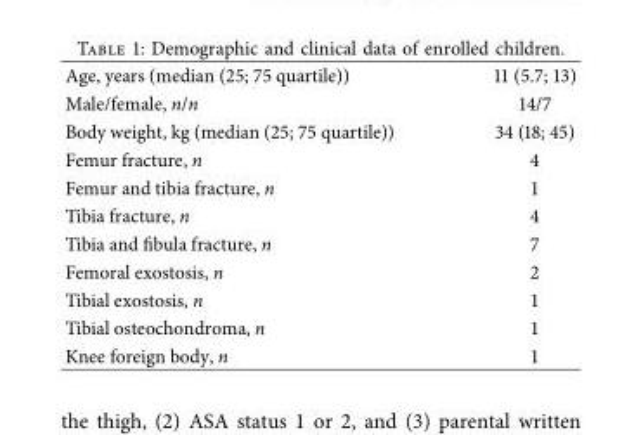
<table><tbody><tr><td>Age, years (median (25; 75 quartile))</td><td>11 (5.7; 13)</td></tr><tr><td>Male/female, n/n</td><td>14/7</td></tr><tr><td>Body weight, kg (median (25; 75 quartile))</td><td>34 (18; 45)</td></tr><tr><td>Femur fracture, n</td><td>4</td></tr><tr><td>Femur and tibia fracture, n</td><td>1</td></tr><tr><td>Tibia fracture, n</td><td>4</td></tr><tr><td>Tibia and fbula fracture, n</td><td>7</td></tr><tr><td>Femoral exostosis, n</td><td>2</td></tr><tr><td>Tibial exostosis, n</td><td>1</td></tr><tr><td>Tibial osteochondroma, n</td><td>1</td></tr><tr><td>Knee foreign body, n</td><td>1</td></tr></tbody></table>